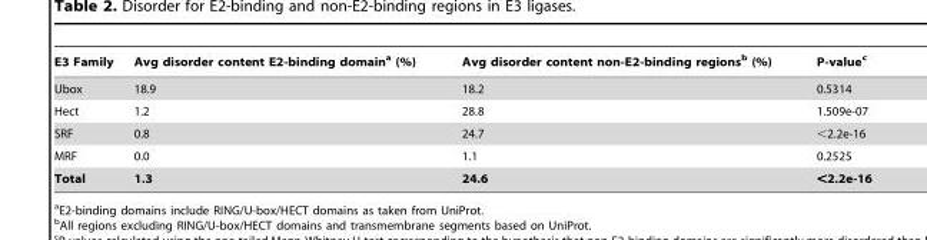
<table><thead><tr><td>E3 Family</td><td>Avg disorder content E2-binding domain<sup>a</sup> (%)</td><td>Avg disorder content non-E2-binding regions<sup>b</sup> (%)</td><td>P-value<sup>c</sup></td></tr></thead><tbody><tr><td>Ubox</td><td>18.9</td><td>18.2</td><td>0.5314</td></tr><tr><td>Hect</td><td>1.2</td><td>28.8</td><td>1.509e-07</td></tr><tr><td>SRF</td><td>0.8</td><td>24.7</td><td>&lt;2.2e-16</td></tr><tr><td>MRF</td><td>0.0</td><td>1.1</td><td>0.2525</td></tr><tr><td>Total</td><td>1.3</td><td>24.6</td><td>&lt;2.2e-16</td></tr></tbody></table>